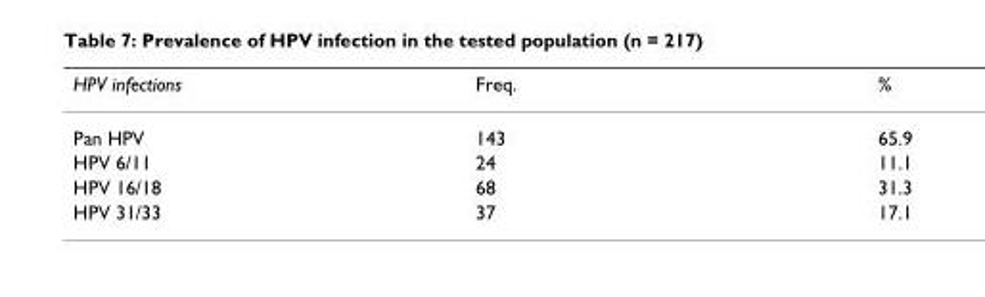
<table><thead><tr><td>HPV infections</td><td>Freq.</td><td>%</td></tr></thead><tbody><tr><td>Pan HPV</td><td>143</td><td>65.9</td></tr><tr><td>HPV 6/11</td><td>24</td><td>11.1</td></tr><tr><td>HPV 16/18</td><td>68</td><td>31.3</td></tr><tr><td>HPV 31/33</td><td>37</td><td>17.1</td></tr></tbody></table>